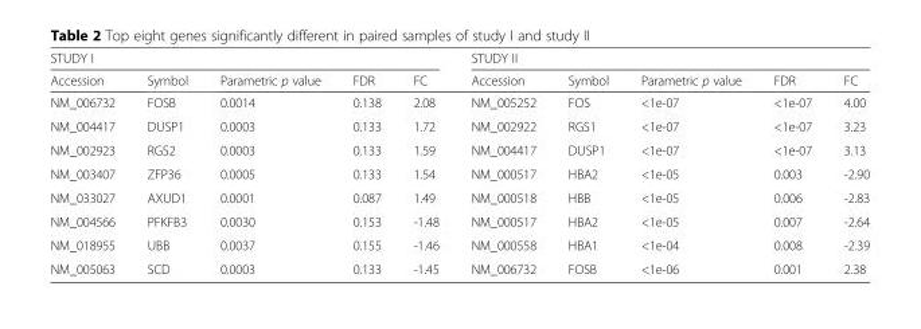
<table><thead><tr><td colspan="5">STUDY I</td><td colspan="5">STUDY II</td></tr><tr><td>Accession</td><td>Symbol</td><td>Parametric p value</td><td>FDR</td><td>FC</td><td>Accession</td><td>Symbol</td><td>Parametric p value</td><td>FDR</td><td>FC</td></tr></thead><tbody><tr><td>NM_006732</td><td>FOSB</td><td>0.0014</td><td>0.138</td><td>2.08</td><td>NM_005252</td><td>FOS</td><td>&lt;1e-07</td><td>&lt;1e-07</td><td>4.00</td></tr><tr><td>NM_004417</td><td>DUSP1</td><td>0.0003</td><td>0.133</td><td>1.72</td><td>NM_002922</td><td>RGS1</td><td>&lt;1e-07</td><td>&lt;1e-07</td><td>3.23</td></tr><tr><td>NM_002923</td><td>RGS2</td><td>0.0003</td><td>0.133</td><td>1.59</td><td>NM_004417</td><td>DUSP1</td><td>&lt;1e-07</td><td>&lt;1e-07</td><td>3.13</td></tr><tr><td>NM_003407</td><td>ZFP36</td><td>0.0005</td><td>0.133</td><td>1.54</td><td>NM_000517</td><td>HBA2</td><td>&lt;1e-05</td><td>0.003</td><td>-2.90</td></tr><tr><td>NM_033027</td><td>AXUD1</td><td>0.0001</td><td>0.087</td><td>1.49</td><td>NM_000518</td><td>HBB</td><td>&lt;1e-05</td><td>0.006</td><td>-2.83</td></tr><tr><td>NM_004566</td><td>PFKFB3</td><td>0.0030</td><td>0.153</td><td>-1.48</td><td>NM_000517</td><td>HBA2</td><td>&lt;1e-05</td><td>0.007</td><td>-2.64</td></tr><tr><td>NM_018955</td><td>UBB</td><td>0.0037</td><td>0.155</td><td>-1.46</td><td>NM_000558</td><td>HBA1</td><td>&lt;1e-04</td><td>0.008</td><td>-2.39</td></tr><tr><td>NM_005063</td><td>SCD</td><td>0.0003</td><td>0.133</td><td>-1.45</td><td>NM_006732</td><td>FOSB</td><td>&lt;1e-06</td><td>0.001</td><td>2.38</td></tr></tbody></table>